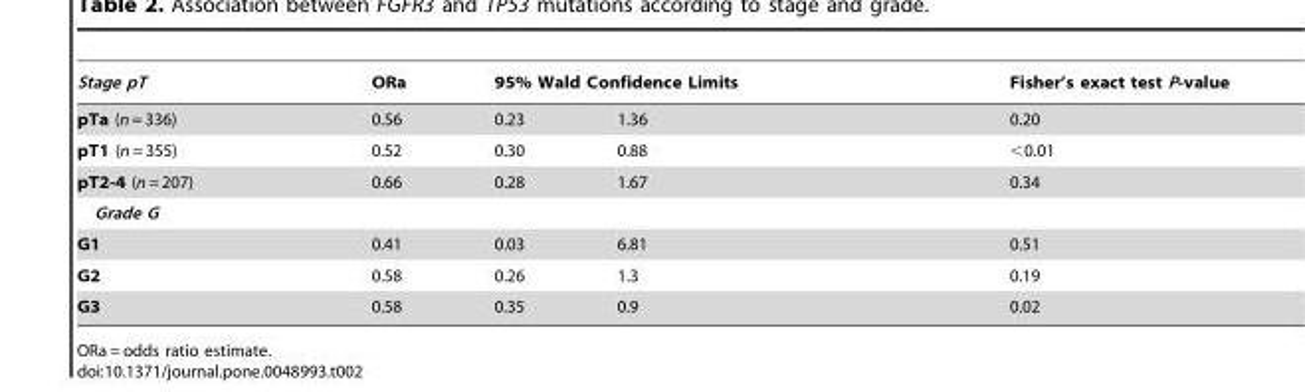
<table><thead><tr><td rowspan="2">Stage pT pTa (n = 336)</td><td rowspan="2">ORa 0.56</td><td colspan="2">95% Wald Confidence Limits</td><td rowspan="2">Fisher’s exact test P-value 0.20</td></tr><tr><td>0.23</td><td>1.36</td></tr></thead><tbody><tr><td>pT1 (n = 355)</td><td>0.52</td><td>0.30</td><td>0.88</td><td>&lt;0.01</td></tr><tr><td>pT2-4 (n = 207)</td><td>0.66</td><td>0.28</td><td>1.67</td><td>0.34</td></tr><tr><td colspan="5">Grade G</td></tr><tr><td>G1</td><td>0.41</td><td>0.03</td><td>6.81</td><td>0.51</td></tr><tr><td>G2</td><td>0.58</td><td>0.26</td><td>1.3</td><td>0.19</td></tr><tr><td>G3</td><td>0.58</td><td>0.35</td><td>0.9</td><td>0.02</td></tr></tbody></table>